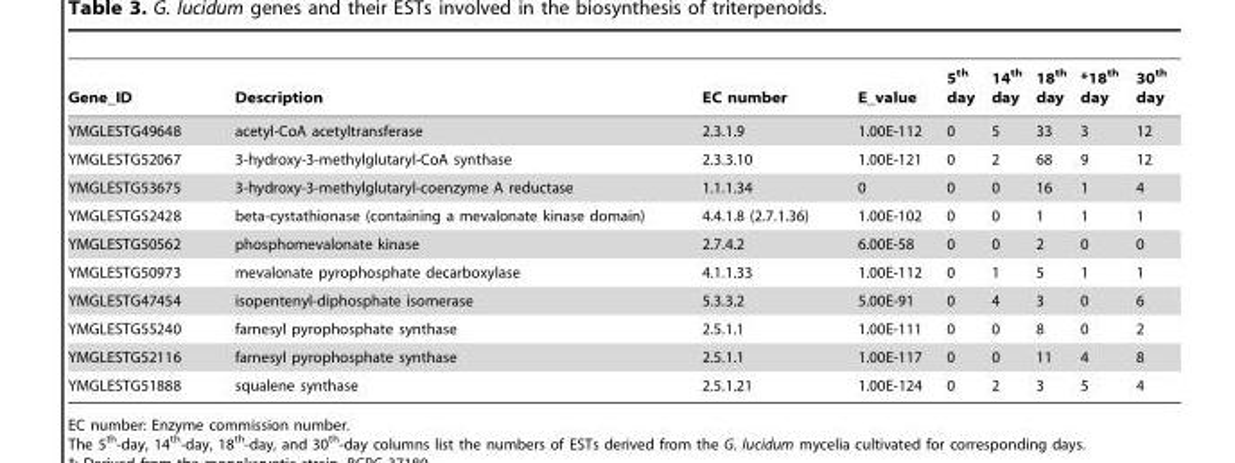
<table><thead><tr><td>Gene_ID</td><td>Description</td><td>EC number</td><td>E_value</td><td>5<sup>th</sup> day</td><td>14<sup>th</sup> day</td><td>18<sup>th</sup> day</td><td>*18<sup>th</sup> day</td><td>30<sup>th</sup> day</td></tr></thead><tbody><tr><td>YMGLESTG49648</td><td>acetyl-CoA acetyltransferase</td><td>2.3.1.9</td><td>1.00E-112</td><td>0</td><td>5</td><td>33</td><td>3</td><td>12</td></tr><tr><td>YMGLESTG52067</td><td>3-hydroxy-3-methylglutaryl-CoA synthase</td><td>2.3.3.10</td><td>1.00E-121</td><td>0</td><td>2</td><td>68</td><td>9</td><td>12</td></tr><tr><td>YMGLESTG53675</td><td>3-hydroxy-3-methylglutaryl-coenzyme A reductase</td><td>1.1.1.34</td><td>0</td><td>0</td><td>0</td><td>16</td><td>1</td><td>4</td></tr><tr><td>YMGLESTG52428</td><td>beta-cystathionase (containing a mevalonate kinase domain)</td><td>4.4.1.8 (2.7.1.36)</td><td>1.00E-102</td><td>0</td><td>0</td><td>1</td><td>1</td><td>1</td></tr><tr><td>YMGLESTG50562</td><td>phosphomevalonate kinase</td><td>2.7.4.2</td><td>6.00E-58</td><td>0</td><td>0</td><td>2</td><td>0</td><td>0</td></tr><tr><td>YMGLESTG50973</td><td>mevalonate pyrophosphate decarboxylase</td><td>4.1.1.33</td><td>1.00E-112</td><td>0</td><td>1</td><td>5</td><td>1</td><td>1</td></tr><tr><td>YMGLESTG47454</td><td>isopentenyl-diphosphate isomerase</td><td>5.3.3.2</td><td>5.00E-91</td><td>0</td><td>4</td><td>3</td><td>0</td><td>6</td></tr><tr><td>YMGLESTG55240</td><td>farnesyl pyrophosphate synthase</td><td>2.5.1.1</td><td>1.00E-111</td><td>0</td><td>0</td><td>8</td><td>0</td><td>2</td></tr><tr><td>YMGLESTG52116</td><td>farnesyl pyrophosphate synthase</td><td>2.5.1.1</td><td>1.00E-117</td><td>0</td><td>0</td><td>11</td><td>4</td><td>8</td></tr><tr><td>YMGLESTG51888</td><td>squalene synthase</td><td>2.5.1.21</td><td>1.00E-124</td><td>0</td><td>2</td><td>3</td><td>5</td><td>4</td></tr></tbody></table>